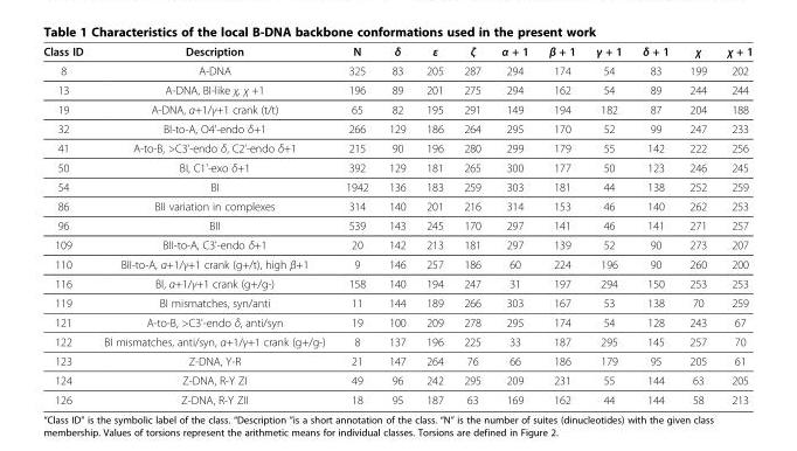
<table><thead><tr><td>Class ID</td><td>Description</td><td>N</td><td>δ</td><td>ε</td><td>ζ</td><td>α + 1</td><td>β + 1</td><td>γ + 1</td><td>δ + 1</td><td>χ</td><td>χ + 1</td></tr></thead><tbody><tr><td>8</td><td>A-DNA</td><td>325</td><td>83</td><td>205</td><td>287</td><td>294</td><td>174</td><td>54</td><td>83</td><td>199</td><td>202</td></tr><tr><td>13</td><td>A-DNA, BI-like χ, χ +1</td><td>196</td><td>89</td><td>201</td><td>275</td><td>294</td><td>162</td><td>54</td><td>89</td><td>244</td><td>244</td></tr><tr><td>19</td><td>A-DNA, α+1/γ+1 crank (t/t)</td><td>65</td><td>82</td><td>195</td><td>291</td><td>149</td><td>194</td><td>182</td><td>87</td><td>204</td><td>188</td></tr><tr><td>32</td><td>BI-to-A, O4&#x27;-endo δ+1</td><td>266</td><td>129</td><td>186</td><td>264</td><td>295</td><td>170</td><td>52</td><td>99</td><td>247</td><td>233</td></tr><tr><td>41</td><td>A-to-B, &gt;C3&#x27;-endo δ, C2&#x27;-endo δ+1</td><td>215</td><td>90</td><td>196</td><td>280</td><td>299</td><td>179</td><td>55</td><td>142</td><td>222</td><td>256</td></tr><tr><td>50</td><td>BI, C1&#x27;-exo δ+1</td><td>392</td><td>129</td><td>181</td><td>265</td><td>300</td><td>177</td><td>50</td><td>123</td><td>246</td><td>245</td></tr><tr><td>54</td><td>BI</td><td>1942</td><td>136</td><td>183</td><td>259</td><td>303</td><td>181</td><td>44</td><td>138</td><td>252</td><td>259</td></tr><tr><td>86</td><td>BII variation in complexes</td><td>314</td><td>140</td><td>201</td><td>216</td><td>314</td><td>153</td><td>46</td><td>140</td><td>262</td><td>253</td></tr><tr><td>96</td><td>BII</td><td>539</td><td>143</td><td>245</td><td>170</td><td>297</td><td>141</td><td>46</td><td>141</td><td>271</td><td>257</td></tr><tr><td>109</td><td>BII-to-A, C3&#x27;-endo δ+1</td><td>20</td><td>142</td><td>213</td><td>181</td><td>297</td><td>139</td><td>52</td><td>90</td><td>273</td><td>207</td></tr><tr><td>110</td><td>BII-to-A, α+1/γ+1 crank (g+/t), high β+1</td><td>9</td><td>146</td><td>257</td><td>186</td><td>60</td><td>224</td><td>196</td><td>90</td><td>260</td><td>200</td></tr><tr><td>116</td><td>BI, α+1/γ+1 crank (g+/g-)</td><td>158</td><td>140</td><td>194</td><td>247</td><td>31</td><td>197</td><td>294</td><td>150</td><td>253</td><td>253</td></tr><tr><td>119</td><td>BI mismatches, syn/anti</td><td>11</td><td>144</td><td>189</td><td>266</td><td>303</td><td>167</td><td>53</td><td>138</td><td>70</td><td>259</td></tr><tr><td>121</td><td>A-to-B, &gt;C3&#x27;-endo δ, anti/syn</td><td>19</td><td>100</td><td>209</td><td>278</td><td>295</td><td>174</td><td>54</td><td>128</td><td>243</td><td>67</td></tr><tr><td>122</td><td>BI mismatches, anti/syn, α+1/γ+1 crank (g+/g-)</td><td>8</td><td>137</td><td>196</td><td>225</td><td>33</td><td>187</td><td>295</td><td>145</td><td>257</td><td>70</td></tr><tr><td>123</td><td>Z-DNA, Y-R</td><td>21</td><td>147</td><td>264</td><td>76</td><td>66</td><td>186</td><td>179</td><td>95</td><td>205</td><td>61</td></tr><tr><td>124</td><td>Z-DNA, R-Y ZI</td><td>49</td><td>96</td><td>242</td><td>295</td><td>209</td><td>231</td><td>55</td><td>144</td><td>63</td><td>205</td></tr><tr><td>126</td><td>Z-DNA, R-Y ZII</td><td>18</td><td>95</td><td>187</td><td>63</td><td>169</td><td>162</td><td>44</td><td>144</td><td>58</td><td>213</td></tr></tbody></table>